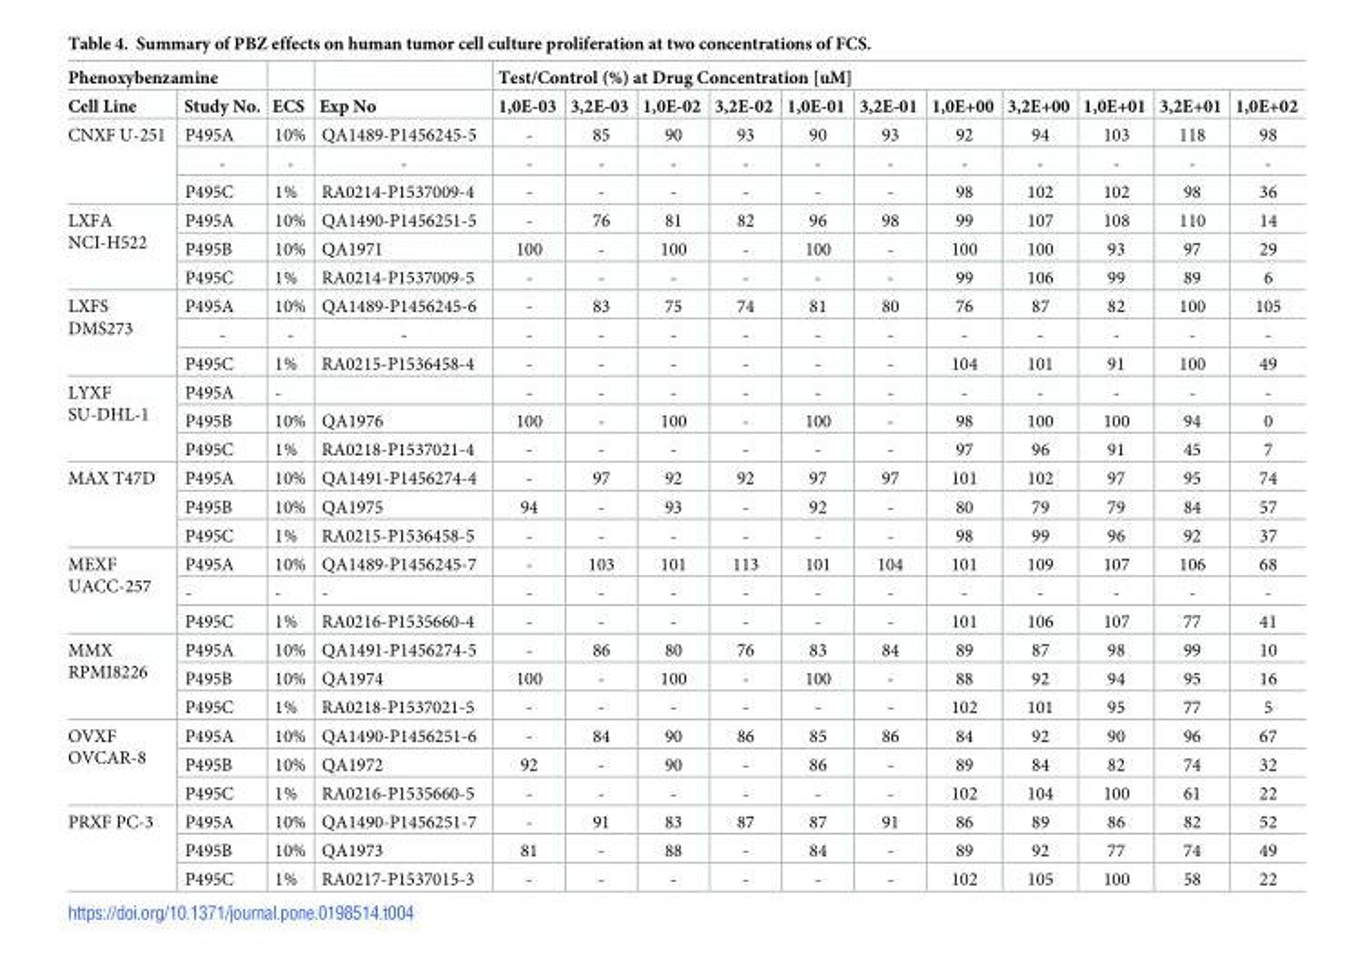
<table><thead><tr><td colspan="2">Phenoxybenzamine</td><td rowspan="2">ECS</td><td rowspan="2">Exp No</td><td colspan="11">Test/Control (%) at Drug Concentration [uM]</td></tr><tr><td>Cell Line</td><td>Study No.</td><td>1,0E-03</td><td>3,2E-03</td><td>1,0E-02</td><td>3,2E-02</td><td>1,0E-01</td><td>3,2E-01</td><td>1,0E+00</td><td>3,2E+00</td><td>1,0E+01</td><td>3,2E+01</td><td>1,0E+02</td></tr></thead><tbody><tr><td rowspan="3">CNXF U-251</td><td>P495A</td><td>10%</td><td>QA1489-P1456245-5</td><td>-</td><td>85</td><td>90</td><td>93</td><td>90</td><td>93</td><td>92</td><td>94</td><td>103</td><td>118</td><td>98</td></tr><tr><td>-</td><td>-</td><td>-</td><td>-</td><td>-</td><td>-</td><td>-</td><td>-</td><td>-</td><td>-</td><td>-</td><td>-</td><td>-</td><td>-</td></tr><tr><td>P495C</td><td>1%</td><td>RA0214-P1537009-4</td><td>-</td><td>-</td><td>-</td><td>-</td><td>-</td><td>-</td><td>98</td><td>102</td><td>102</td><td>98</td><td>36</td></tr><tr><td rowspan="3">LXFA NCI-H522</td><td>P495A</td><td>10%</td><td>QA1490-P1456251-5</td><td>-</td><td>76</td><td>81</td><td>82</td><td>96</td><td>98</td><td>99</td><td>107</td><td>108</td><td>110</td><td>14</td></tr><tr><td>P495B</td><td>10%</td><td>QA1971</td><td>100</td><td>-</td><td>100</td><td>-</td><td>100</td><td>-</td><td>100</td><td>100</td><td>93</td><td>97</td><td>29</td></tr><tr><td>P495C</td><td>1%</td><td>RA0214-P1537009-5</td><td>-</td><td>-</td><td>-</td><td>-</td><td>-</td><td>-</td><td>99</td><td>106</td><td>99</td><td>89</td><td>6</td></tr><tr><td rowspan="3">LXFS DMS273</td><td>P495A</td><td>10%</td><td>QA1489-P1456245-6</td><td>-</td><td>83</td><td>75</td><td>74</td><td>81</td><td>80</td><td>76</td><td>87</td><td>82</td><td>100</td><td>105</td></tr><tr><td>-</td><td>-</td><td>-</td><td>-</td><td>-</td><td>-</td><td>-</td><td>-</td><td>-</td><td>-</td><td>-</td><td>-</td><td>-</td><td>-</td></tr><tr><td>P495C</td><td>1%</td><td>RA0215-P1536458-4</td><td>-</td><td>-</td><td>-</td><td>-</td><td>-</td><td>-</td><td>104</td><td>101</td><td>91</td><td>100</td><td>49</td></tr><tr><td rowspan="3">LYXF SU-DHL-1</td><td>P495A</td><td>-</td><td></td><td>-</td><td>-</td><td>-</td><td>-</td><td>-</td><td>-</td><td>-</td><td>-</td><td>-</td><td>-</td><td>-</td></tr><tr><td>P495B</td><td>10%</td><td>QA1976</td><td>100</td><td>-</td><td>100</td><td>-</td><td>100</td><td>-</td><td>98</td><td>100</td><td>100</td><td>94</td><td>0</td></tr><tr><td>P495C</td><td>1%</td><td>RA0218-P1537021-4</td><td>-</td><td>-</td><td>-</td><td>-</td><td>-</td><td>-</td><td>97</td><td>96</td><td>91</td><td>45</td><td>7</td></tr><tr><td rowspan="3">MAX T47D</td><td>P495A</td><td>10%</td><td>QA1491-P1456274-4</td><td>-</td><td>97</td><td>92</td><td>92</td><td>97</td><td>97</td><td>101</td><td>102</td><td>97</td><td>95</td><td>74</td></tr><tr><td>P495B</td><td>10%</td><td>QA1975</td><td>94</td><td>-</td><td>93</td><td>-</td><td>92</td><td>-</td><td>80</td><td>79</td><td>79</td><td>84</td><td>57</td></tr><tr><td>P495C</td><td>1%</td><td>RA0215-P1536458-5</td><td>-</td><td>-</td><td>-</td><td>-</td><td>-</td><td>-</td><td>98</td><td>99</td><td>96</td><td>92</td><td>37</td></tr><tr><td rowspan="3">MEXF UACC-257</td><td>P495A</td><td>10%</td><td>QA1489-P1456245-7</td><td>-</td><td>103</td><td>101</td><td>113</td><td>101</td><td>104</td><td>101</td><td>109</td><td>107</td><td>106</td><td>68</td></tr><tr><td>-</td><td>-</td><td>-</td><td>-</td><td>-</td><td>-</td><td>-</td><td>-</td><td>-</td><td>-</td><td>-</td><td>-</td><td>-</td><td>-</td></tr><tr><td>P495C</td><td>1%</td><td>RA0216-P1535660-4</td><td>-</td><td>-</td><td>-</td><td>-</td><td>-</td><td>-</td><td>101</td><td>106</td><td>107</td><td>77</td><td>41</td></tr><tr><td rowspan="3">MMX RPMI8226</td><td>P495A</td><td>10%</td><td>QA1491-P1456274-5</td><td>-</td><td>86</td><td>80</td><td>76</td><td>83</td><td>84</td><td>89</td><td>87</td><td>98</td><td>99</td><td>10</td></tr><tr><td>P495B</td><td>10%</td><td>QA1974</td><td>100</td><td>-</td><td>100</td><td>-</td><td>100</td><td>-</td><td>88</td><td>92</td><td>94</td><td>95</td><td>16</td></tr><tr><td>P495C</td><td>1%</td><td>RA0218-P1537021-5</td><td>-</td><td>-</td><td>-</td><td>-</td><td>-</td><td>-</td><td>102</td><td>101</td><td>95</td><td>77</td><td>5</td></tr><tr><td rowspan="3">OVXF OVCAR-8</td><td>P495A</td><td>10%</td><td>QA1490-P1456251-6</td><td>-</td><td>84</td><td>90</td><td>86</td><td>85</td><td>86</td><td>84</td><td>92</td><td>90</td><td>96</td><td>67</td></tr><tr><td>P495B</td><td>10%</td><td>QA1972</td><td>92</td><td>-</td><td>90</td><td>-</td><td>86</td><td>-</td><td>89</td><td>84</td><td>82</td><td>74</td><td>32</td></tr><tr><td>P495C</td><td>1%</td><td>RA0216-P1535660-5</td><td>-</td><td>-</td><td>-</td><td>-</td><td>-</td><td>-</td><td>102</td><td>104</td><td>100</td><td>61</td><td>22</td></tr><tr><td rowspan="3">PRXF PC-3</td><td>P495A</td><td>10%</td><td>QA1490-P1456251-7</td><td>-</td><td>91</td><td>83</td><td>87</td><td>87</td><td>91</td><td>86</td><td>89</td><td>86</td><td>82</td><td>52</td></tr><tr><td>P495B</td><td>10%</td><td>QA1973</td><td>81</td><td>-</td><td>88</td><td>-</td><td>84</td><td>-</td><td>89</td><td>92</td><td>77</td><td>74</td><td>49</td></tr><tr><td>P495C</td><td>1%</td><td>RA0217-P1537015-3</td><td>-</td><td>-</td><td>-</td><td>-</td><td>-</td><td>-</td><td>102</td><td>105</td><td>100</td><td>58</td><td>22</td></tr></tbody></table>